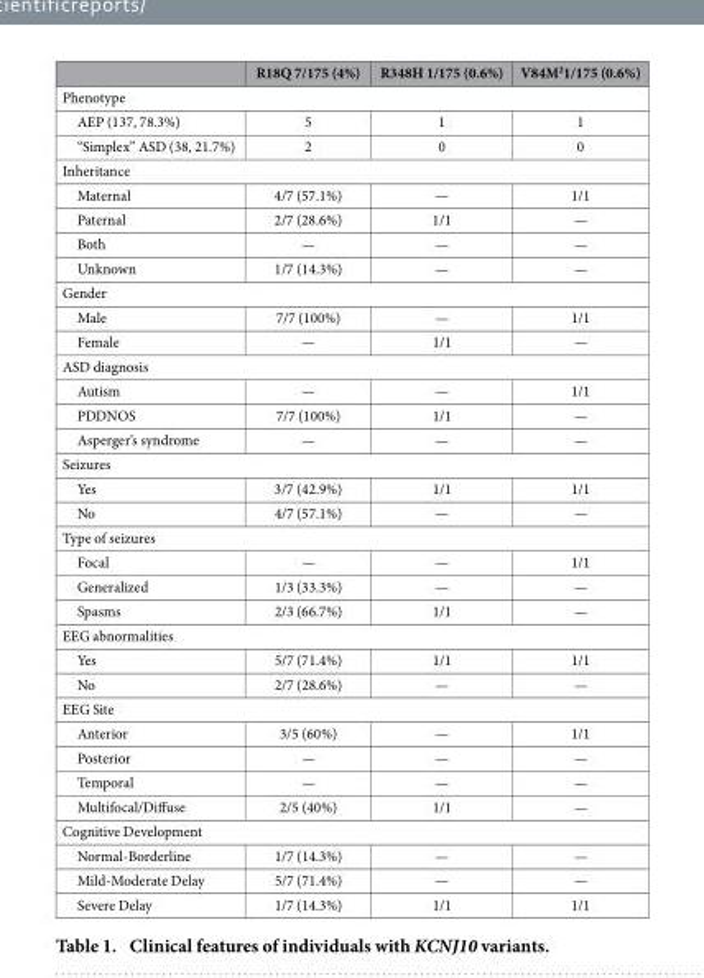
<table><thead><tr><td></td><td>R18Q 7/175 (4%)</td><td>R348H 1/175 (0.6%)</td><td>V84M<sup>2</sup>1/175 (0.6%)</td></tr></thead><tbody><tr><td colspan="4">Phenotype</td></tr><tr><td>AEP (137, 78.3%)</td><td>5</td><td>1</td><td>1</td></tr><tr><td>“Simplex” ASD (38, 21.7%)</td><td>2</td><td>0</td><td>0</td></tr><tr><td colspan="4">Inheritance</td></tr><tr><td>Maternal</td><td>4/7 (57.1%)</td><td>—</td><td>1/1</td></tr><tr><td>Paternal</td><td>2/7 (28.6%)</td><td>1/1</td><td>—</td></tr><tr><td>Both</td><td>—</td><td>—</td><td>—</td></tr><tr><td>Unknown</td><td>1/7 (14.3%)</td><td>—</td><td>—</td></tr><tr><td colspan="4">Gender</td></tr><tr><td>Male</td><td>7/7 (100%)</td><td>—</td><td>1/1</td></tr><tr><td>Female</td><td>—</td><td>1/1</td><td>—</td></tr><tr><td colspan="4">ASD diagnosis</td></tr><tr><td>Autism</td><td>—</td><td>—</td><td>1/1</td></tr><tr><td>PDDNOS</td><td>7/7 (100%)</td><td>1/1</td><td>—</td></tr><tr><td>Asperger’s syndrome</td><td>—</td><td>—</td><td>—</td></tr><tr><td colspan="4">Seizures</td></tr><tr><td>Yes</td><td>3/7 (42.9%)</td><td>1/1</td><td>1/1</td></tr><tr><td>No</td><td>4/7 (57.1%)</td><td>—</td><td>—</td></tr><tr><td colspan="4">Type of seizures</td></tr><tr><td>Focal</td><td>—</td><td>—</td><td>1/1</td></tr><tr><td>Generalized</td><td>1/3 (33.3%)</td><td>—</td><td>—</td></tr><tr><td>Spasms</td><td>2/3 (66.7%)</td><td>1/1</td><td>—</td></tr><tr><td colspan="4">EEG abnormalities</td></tr><tr><td>Yes</td><td>5/7 (71.4%)</td><td>1/1</td><td>1/1</td></tr><tr><td>No</td><td>2/7 (28.6%)</td><td>—</td><td>—</td></tr><tr><td colspan="4">EEG Site</td></tr><tr><td>Anterior</td><td>3/5 (60%)</td><td>—</td><td>1/1</td></tr><tr><td>Posterior</td><td>—</td><td>—</td><td>—</td></tr><tr><td>Temporal</td><td>—</td><td>—</td><td>—</td></tr><tr><td>Multifocal/Diffuse</td><td>2/5 (40%)</td><td>1/1</td><td>—</td></tr><tr><td colspan="4">Cognitive Development</td></tr><tr><td>Normal-Borderline</td><td>1/7 (14.3%)</td><td>—</td><td>—</td></tr><tr><td>Mild-Moderate Delay</td><td>5/7 (71.4%)</td><td>—</td><td>—</td></tr><tr><td>Severe Delay</td><td>1/7 (14.3%)</td><td>1/1</td><td>1/1</td></tr></tbody></table>